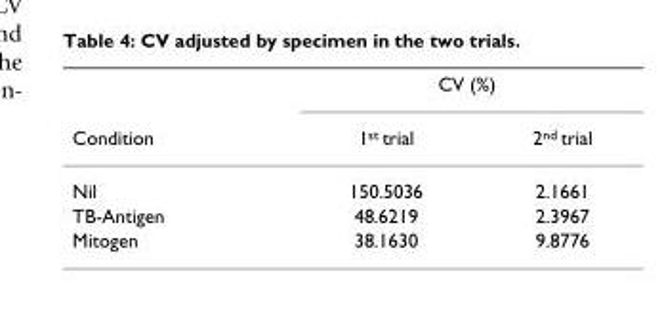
<table><thead><tr><td rowspan="2">Condition</td><td colspan="2">CV (%)</td></tr><tr><td>1<sup>st</sup> trial</td><td>2<sup>nd</sup> trial</td></tr></thead><tbody><tr><td>Nil</td><td>150.5036</td><td>2.1661</td></tr><tr><td>TB-Antigen</td><td>48.6219</td><td>2.3967</td></tr><tr><td>Mitogen</td><td>38.1630</td><td>9.8776</td></tr></tbody></table>